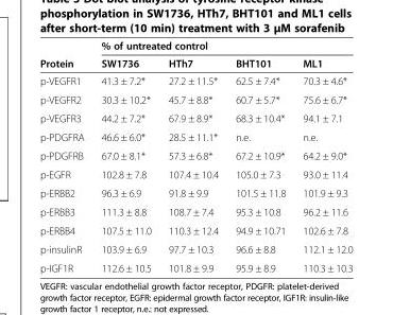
<table><thead><tr><td rowspan="2">Protein</td><td colspan="4">% of untreated control</td></tr><tr><td>SW1736</td><td>HTh7</td><td>BHT101</td><td>ML1</td></tr></thead><tbody><tr><td>p-VEGFR1</td><td>41.3 ± 7.2*</td><td>27.2 ± 11.5*</td><td>62.5 ± 7.4*</td><td>70.3 ± 4.6*</td></tr><tr><td>p-VEGFR2</td><td>30.3 ± 10.2*</td><td>45.7 ± 8.8*</td><td>60.7 ± 5.7*</td><td>75.6 ± 6.7*</td></tr><tr><td>p-VEGFR3</td><td>44.2 ± 7.2*</td><td>67.9 ± 8.9*</td><td>68.3 ± 10.4*</td><td>94.1 ± 7.1</td></tr><tr><td>p-PDGFRA</td><td>46.6 ± 6.0*</td><td>28.5 ± 11.1*</td><td>n.e.</td><td>n.e.</td></tr><tr><td>p-PDGFRB</td><td>67.0 ± 8.1*</td><td>57.3 ± 6.8*</td><td>67.2 ± 10.9*</td><td>64.2 ± 9.0*</td></tr><tr><td>p-EGFR</td><td>102.8 ± 7.8</td><td>107.4 ± 10.4</td><td>105.0 ± 7.3</td><td>93.0 ± 11.4</td></tr><tr><td>p-ERBB2</td><td>96.3 ± 6.9</td><td>91.8 ± 9.9</td><td>101.5 ± 11.8</td><td>101.9 ± 9.3</td></tr><tr><td>p-ERBB3</td><td>111.3 ± 8.8</td><td>108.7 ± 7.4</td><td>95.3 ± 10.8</td><td>96.2 ± 11.6</td></tr><tr><td>p-ERBB4</td><td>107.5 ± 11.0</td><td>110.3 ± 12.4</td><td>94.9 ± 10.71</td><td>102.6 ± 7.8</td></tr><tr><td>p-insulinR</td><td>103.9 ± 6.9</td><td>97.7 ± 10.3</td><td>96.6 ± 8.8</td><td>112.1 ± 12.0</td></tr><tr><td>p-IGF1R</td><td>112.6 ± 10.5</td><td>101.8 ± 9.9</td><td>95.9 ± 8.9</td><td>110.3 ± 10.3</td></tr></tbody></table>